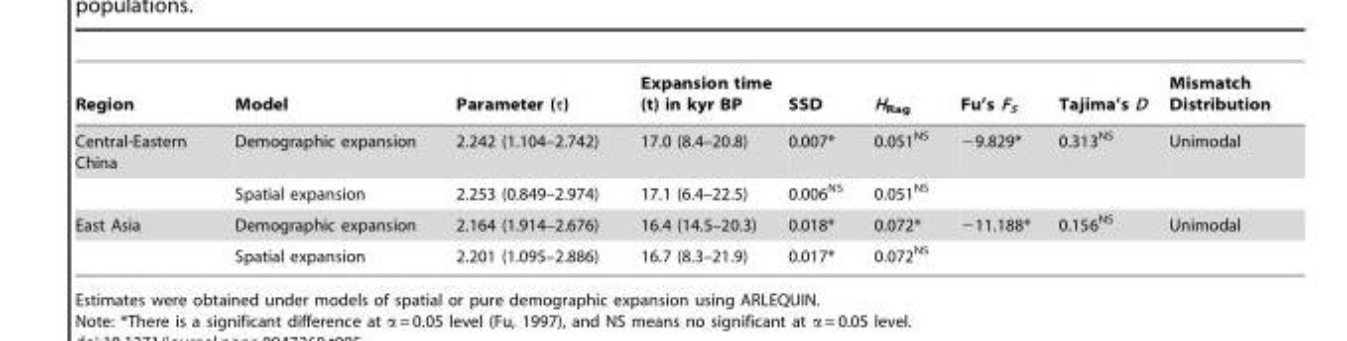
<table><thead><tr><td>Region</td><td>Model</td><td>Parameter (τ)</td><td>Expansion time (t) in kyr BP</td><td>SSD</td><td>H<sub>Rag</sub></td><td>Fu’s F<sub>S</sub></td><td>Tajima’s D</td><td>Mismatch Distribution</td></tr></thead><tbody><tr><td rowspan="2">Central-Eastern China</td><td>Demographic expansion</td><td>2.242 (1.104–2.742)</td><td>17.0 (8.4–20.8)</td><td>0.007*</td><td>0.051<sup>NS</sup></td><td>−9.829*</td><td>0.313<sup>NS</sup></td><td>Unimodal</td></tr><tr><td>Spatial expansion</td><td>2.253 (0.849–2.974)</td><td>17.1 (6.4–22.5)</td><td>0.006<sup>NS</sup></td><td>0.051<sup>NS</sup></td><td></td><td></td><td></td></tr><tr><td rowspan="2">East Asia</td><td>Demographic expansion</td><td>2.164 (1.914–2.676)</td><td>16.4 (14.5–20.3)</td><td>0.018*</td><td>0.072*</td><td>−11.188*</td><td>0.156<sup>NS</sup></td><td>Unimodal</td></tr><tr><td>Spatial expansion</td><td>2.201 (1.095–2.886)</td><td>16.7 (8.3–21.9)</td><td>0.017*</td><td>0.072<sup>NS</sup></td><td></td><td></td><td></td></tr></tbody></table>